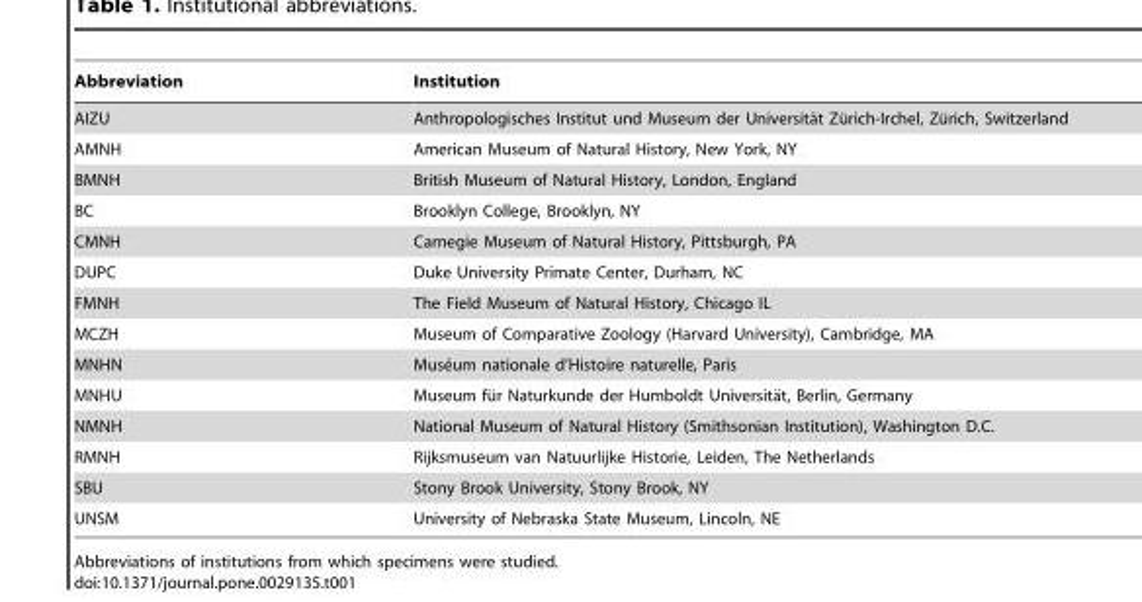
<table><thead><tr><td>Abbreviation</td><td>Institution</td></tr></thead><tbody><tr><td>AIZU</td><td>Anthropologisches Institut und Museum der Universita¨t Zu¨rich-Irchel, Zu¨rich, Switzerland</td></tr><tr><td>AMNH</td><td>American Museum of Natural History, New York, NY</td></tr><tr><td>BMNH</td><td>British Museum of Natural History, London, England</td></tr><tr><td>BC</td><td>Brooklyn College, Brooklyn, NY</td></tr><tr><td>CMNH</td><td>Carnegie Museum of Natural History, Pittsburgh, PA</td></tr><tr><td>DUPC</td><td>Duke University Primate Center, Durham, NC</td></tr><tr><td>FMNH</td><td>The Field Museum of Natural History, Chicago IL</td></tr><tr><td>MCZH</td><td>Museum of Comparative Zoology (Harvard University), Cambridge, MA</td></tr><tr><td>MNHN</td><td>Muse´um nationale d’Histoire naturelle, Paris</td></tr><tr><td>MNHU</td><td>Museum fu¨r Naturkunde der Humboldt Universita¨t, Berlin, Germany</td></tr><tr><td>NMNH</td><td>National Museum of Natural History (Smithsonian Institution), Washington D.C.</td></tr><tr><td>RMNH</td><td>Rijksmuseum van Natuurlijke Historie, Leiden, The Netherlands</td></tr><tr><td>SBU</td><td>Stony Brook University, Stony Brook, NY</td></tr><tr><td>UNSM</td><td>University of Nebraska State Museum, Lincoln, NE</td></tr></tbody></table>